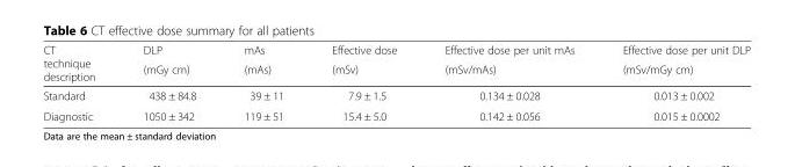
<table><thead><tr><td rowspan="2">CT technique description</td><td rowspan="2">DLP (mGy cm)</td><td rowspan="2">mAs (mAs)</td><td rowspan="2">Effective dose (mSv)</td><td rowspan="2">Effective dose per unit mAs (mSv/mAs)</td><td rowspan="2">Effective dose per unit DLP (mSv/mGy cm)</td></tr><tr></tr></thead><tbody><tr><td>Standard</td><td>438 ± 84.8</td><td>39 ± 11</td><td>7.9 ± 1.5</td><td>0.134 ± 0.028</td><td>0.013 ± 0.002</td></tr><tr><td>Diagnostic</td><td>1050 ± 342</td><td>119 ± 51</td><td>15.4 ± 5.0</td><td>0.142 ± 0.056</td><td>0.015 ± 0.0002</td></tr></tbody></table>